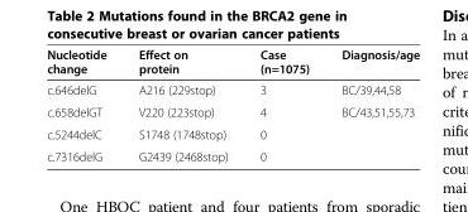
<table><thead><tr><td>Nucleotide change</td><td>Effect on protein</td><td>Case (n=1075)</td><td>Diagnosis/age</td></tr></thead><tbody><tr><td>c.646delG</td><td>A216 (229stop)</td><td>3</td><td>BC/39,44,58</td></tr><tr><td>c.658delGT</td><td>V220 (223stop)</td><td>4</td><td>BC/43,51,55,73</td></tr><tr><td>c.5244delC</td><td>S1748 (1748stop)</td><td>0</td><td></td></tr><tr><td>c.7316delG</td><td>G2439 (2468stop)</td><td>0</td><td></td></tr></tbody></table>